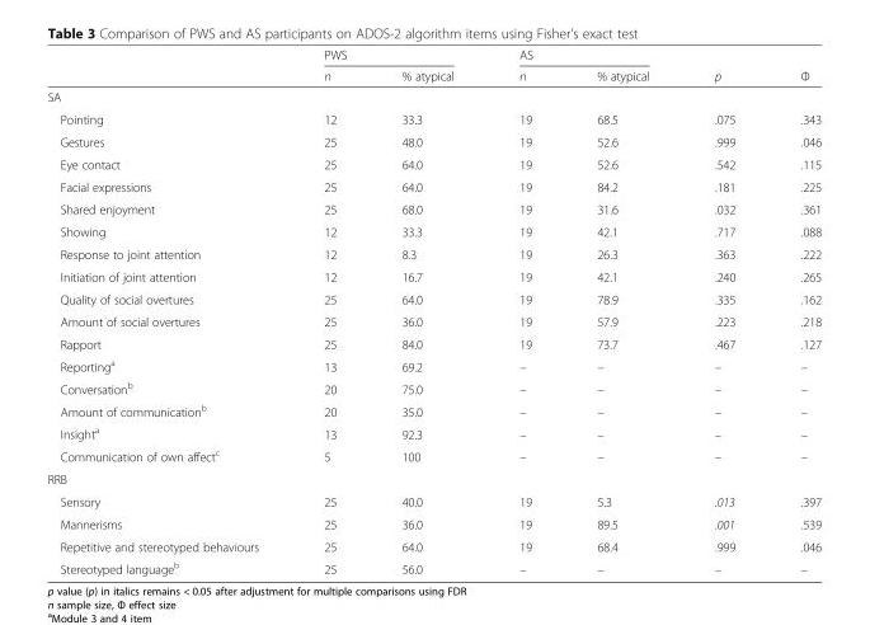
<table><thead><tr><td rowspan="2"></td><td colspan="2">PWS</td><td colspan="2">AS</td><td rowspan="2">p</td><td rowspan="2">Φ</td></tr><tr><td>n</td><td>% atypical</td><td>n</td><td>% atypical</td></tr></thead><tbody><tr><td colspan="7">SA</td></tr><tr><td>Pointing</td><td>12</td><td>33.3</td><td>19</td><td>68.5</td><td>.075</td><td>.343</td></tr><tr><td>Gestures</td><td>25</td><td>48.0</td><td>19</td><td>52.6</td><td>.999</td><td>.046</td></tr><tr><td>Eye contact</td><td>25</td><td>64.0</td><td>19</td><td>52.6</td><td>.542</td><td>.115</td></tr><tr><td>Facial expressions</td><td>25</td><td>64.0</td><td>19</td><td>84.2</td><td>.181</td><td>.225</td></tr><tr><td>Shared enjoyment</td><td>25</td><td>68.0</td><td>19</td><td>31.6</td><td>.032</td><td>.361</td></tr><tr><td>Showing</td><td>12</td><td>33.3</td><td>19</td><td>42.1</td><td>.717</td><td>.088</td></tr><tr><td>Response to joint attention</td><td>12</td><td>8.3</td><td>19</td><td>26.3</td><td>.363</td><td>.222</td></tr><tr><td>Initiation of joint attention</td><td>12</td><td>16.7</td><td>19</td><td>42.1</td><td>.240</td><td>.265</td></tr><tr><td>Quality of social overtures</td><td>25</td><td>64.0</td><td>19</td><td>78.9</td><td>.335</td><td>.162</td></tr><tr><td>Amount of social overtures</td><td>25</td><td>36.0</td><td>19</td><td>57.9</td><td>.223</td><td>.218</td></tr><tr><td>Rapport</td><td>25</td><td>84.0</td><td>19</td><td>73.7</td><td>.467</td><td>.127</td></tr><tr><td>Reporting<sup>a</sup></td><td>13</td><td>69.2</td><td>–</td><td>–</td><td>–</td><td>–</td></tr><tr><td>Conversation<sup>b</sup></td><td>20</td><td>75.0</td><td>–</td><td>–</td><td>–</td><td>–</td></tr><tr><td>Amount of communication<sup>b</sup></td><td>20</td><td>35.0</td><td>–</td><td>–</td><td>–</td><td>–</td></tr><tr><td>Insight<sup>a</sup></td><td>13</td><td>92.3</td><td>–</td><td>–</td><td>–</td><td>–</td></tr><tr><td>Communication of own affect<sup>c</sup></td><td>5</td><td>100</td><td>–</td><td>–</td><td>–</td><td>–</td></tr><tr><td colspan="7">RRB</td></tr><tr><td>Sensory</td><td>25</td><td>40.0</td><td>19</td><td>5.3</td><td>.013</td><td>.397</td></tr><tr><td>Mannerisms</td><td>25</td><td>36.0</td><td>19</td><td>89.5</td><td>.001</td><td>.539</td></tr><tr><td>Repetitive and stereotyped behaviours</td><td>25</td><td>64.0</td><td>19</td><td>68.4</td><td>.999</td><td>.046</td></tr><tr><td>Stereotyped language<sup>b</sup></td><td>25</td><td>56.0</td><td>–</td><td>–</td><td>–</td><td>–</td></tr></tbody></table>